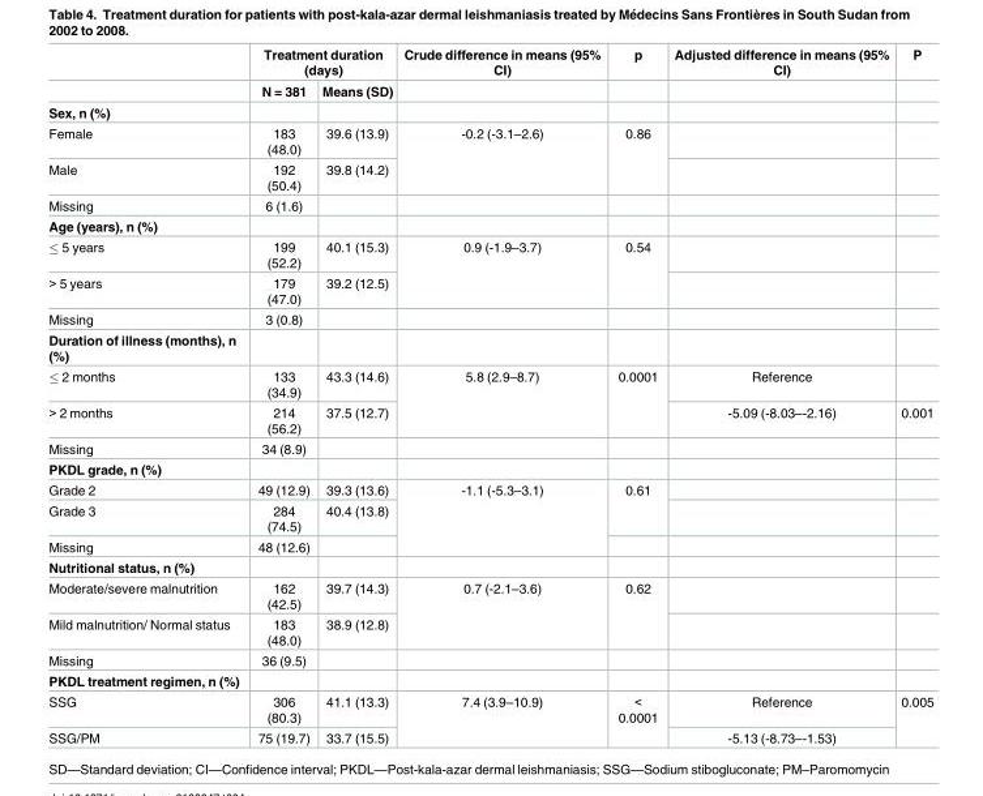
<table><thead><tr><td rowspan="2"></td><td colspan="2">Treatment duration (days)</td><td rowspan="2">Crude difference in means (95% CI)</td><td rowspan="2">p</td><td rowspan="2">Adjusted difference in means (95% CI)</td><td rowspan="2">P</td></tr><tr><td>N = 381</td><td>Means (SD)</td></tr></thead><tbody><tr><td colspan="7">Sex, n (%)</td></tr><tr><td>Female</td><td>183 (48.0)</td><td>39.6 (13.9)</td><td rowspan="2">-0.2 (-3.1–2.6)</td><td rowspan="2">0.86</td><td></td><td></td></tr><tr><td>Male</td><td>192 (50.4)</td><td>39.8 (14.2)</td><td></td><td></td></tr><tr><td>Missing</td><td>6 (1.6)</td><td></td><td></td><td></td><td></td><td></td></tr><tr><td colspan="7">Age (years), n (%)</td></tr><tr><td>≤ 5 years</td><td>199 (52.2)</td><td>40.1 (15.3)</td><td rowspan="2">0.9 (-1.9–3.7)</td><td rowspan="2">0.54</td><td></td><td></td></tr><tr><td>&gt; 5 years</td><td>179 (47.0)</td><td>39.2 (12.5)</td><td></td><td></td></tr><tr><td>Missing</td><td>3 (0.8)</td><td></td><td></td><td></td><td></td><td></td></tr><tr><td colspan="7">Duration of illness (months), n (%)</td></tr><tr><td>≤ 2 months</td><td>133 (34.9)</td><td>43.3 (14.6)</td><td rowspan="2">5.8 (2.9–8.7)</td><td rowspan="2">0.0001</td><td>Reference</td><td></td></tr><tr><td>&gt; 2 months</td><td>214 (56.2)</td><td>37.5 (12.7)</td><td>-5.09 (-8.03–-2.16)</td><td>0.001</td></tr><tr><td>Missing</td><td>34 (8.9)</td><td></td><td></td><td></td><td></td><td></td></tr><tr><td colspan="7">PKDL grade, n (%)</td></tr><tr><td>Grade 2</td><td>49 (12.9)</td><td>39.3 (13.6)</td><td rowspan="3">-1.1 (-5.3–3.1)</td><td rowspan="2">0.61</td><td></td><td></td></tr><tr><td>Grade 3</td><td>284 (74.5)</td><td>40.4 (13.8)</td><td></td><td></td></tr><tr><td>Missing</td><td>48 (12.6)</td><td></td><td></td><td></td><td></td></tr><tr><td colspan="7">Nutritional status, n (%)</td></tr><tr><td>Moderate/severe malnutrition</td><td>162 (42.5)</td><td>39.7 (14.3)</td><td rowspan="2">0.7 (-2.1–3.6)</td><td rowspan="2">0.62</td><td></td><td></td></tr><tr><td>Mild malnutrition/ Normal status</td><td>183 (48.0)</td><td>38.9 (12.8)</td><td></td><td></td></tr><tr><td>Missing</td><td>36 (9.5)</td><td></td><td></td><td></td><td></td><td></td></tr><tr><td colspan="7">PKDL treatment regimen, n (%)</td></tr><tr><td>SSG</td><td>306 (80.3)</td><td>41.1 (13.3)</td><td rowspan="2">7.4 (3.9–10.9)</td><td rowspan="2">&lt; 0.0001</td><td>Reference</td><td rowspan="2">0.005</td></tr><tr><td>SSG/PM</td><td>75 (19.7)</td><td>33.7 (15.5)</td><td>-5.13 (-8.73–-1.53)</td></tr></tbody></table>